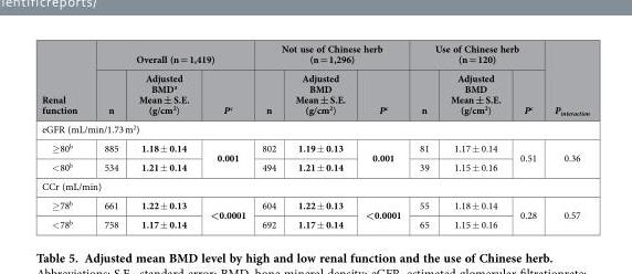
<table><thead><tr><td rowspan="2">Renal function</td><td colspan="3">Overall (n = 1,419)</td><td colspan="3">Not use of Chinese herb (n = 1,296)</td><td colspan="3">Use of Chinese herb (n = 120)</td><td rowspan="2">P<sub>interaction</sub></td></tr><tr><td>n</td><td>Adjusted BMD<sup>a</sup> Mean ± S.E. (g/cm<sup>2</sup>)</td><td>P<sup>c</sup></td><td>n</td><td>Adjusted BMD Mean ± S.E. (g/cm<sup>2</sup>)</td><td>P<sup>c</sup></td><td>n</td><td>Adjusted BMD Mean ± S.E. (g/cm<sup>2</sup>)</td><td>P<sup>c</sup></td></tr></thead><tbody><tr><td colspan="11">eGFR (mL/min/1.73 m<sup>2</sup>)</td></tr><tr><td>≥ 80<sup>b</sup></td><td>885</td><td>1.18 ± 0.14</td><td rowspan="2">0.001</td><td>802</td><td>1.19 ± 0.13</td><td rowspan="2">0.001</td><td>81</td><td>1.17 ± 0.14</td><td rowspan="2">0.51</td><td rowspan="2">0.36</td></tr><tr><td>&lt; 80<sup>b</sup></td><td>534</td><td>1.21 ± 0.14</td><td>494</td><td>1.21 ± 0.14</td><td>39</td><td>1.15 ± 0.16</td></tr><tr><td colspan="11">CCr (mL/min)</td></tr><tr><td>≥ 78<sup>b</sup></td><td>661</td><td>1.22 ± 0.13</td><td rowspan="2">&lt;0.0001</td><td>604</td><td>1.22 ± 0.13</td><td rowspan="2">&lt;0.0001</td><td>55</td><td>1.18 ± 0.14</td><td rowspan="2">0.28</td><td rowspan="2">0.57</td></tr><tr><td>&lt; 78<sup>b</sup></td><td>758</td><td>1.17 ± 0.14</td><td>692</td><td>1.17 ± 0.14</td><td>65</td><td>1.15 ± 0.16</td></tr></tbody></table>